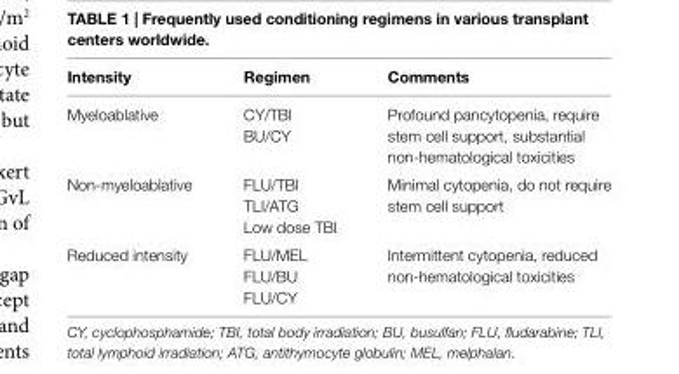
<table><thead><tr><td>intensity</td><td>Regimen</td><td>Comments</td></tr></thead><tbody><tr><td rowspan="2">Myeloablative</td><td>CY/TBI</td><td rowspan="2">Profound pancytopenia, require stem cell support, substantial non-hematological toxicities</td></tr><tr><td>BU/CY</td></tr><tr><td rowspan="3">Non-myeloablative</td><td>FLU/TBI</td><td rowspan="3">Minimal cytopenia, do not require stem cell support</td></tr><tr><td>TLI/ATG</td></tr><tr><td>Low dose TBI</td></tr><tr><td rowspan="3">Reduced intensity</td><td>FLU/MEL</td><td rowspan="3">Intermittent cytopenia, reduced non-hematological toxicities</td></tr><tr><td>FLU/BU</td></tr><tr><td>FLU/CY</td></tr></tbody></table>